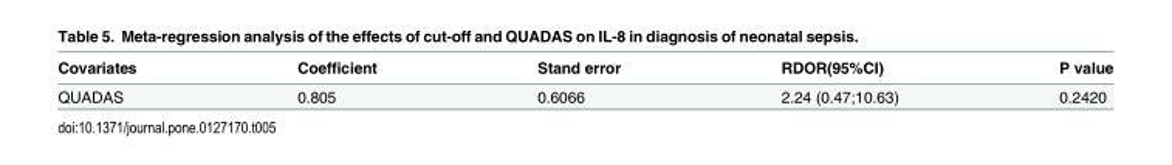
<table><thead><tr><td>Covariates</td><td>Coefficient</td><td>Stand error</td><td>RDOR(95%CI)</td><td>P value</td></tr></thead><tbody><tr><td>QUADAS</td><td>0.805</td><td>0.6066</td><td>2.24 (0.47;10.63)</td><td>0.2420</td></tr></tbody></table>